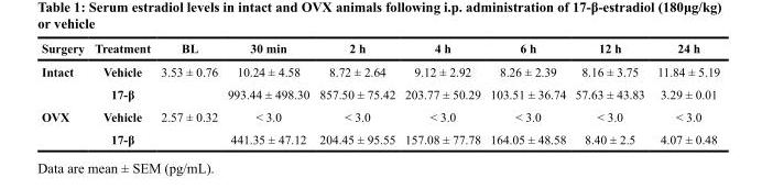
<table><thead><tr><td>Surgery</td><td>Treatment</td><td>BL</td><td>30 min</td><td>2 h</td><td>4 h</td><td>6 h</td><td>12 h</td><td>24 h</td></tr></thead><tbody><tr><td rowspan="2">Intact</td><td>Vehicle</td><td>3.53 ± 0.76</td><td>10.24 ± 4.58</td><td>8.72 ± 2.64</td><td>9.12 ± 2.92</td><td>8.26 ± 2.39</td><td>8.16 ± 3.75</td><td>11.84 ± 5.19</td></tr><tr><td>17-β</td><td></td><td>993.44 ± 498.30</td><td>857.50 ± 75.42</td><td>203.77 ± 50.29</td><td>103.51 ± 36.74</td><td>57.63 ± 43.83</td><td>3.29 ± 0.01</td></tr><tr><td rowspan="2">OVX</td><td>Vehicle</td><td>2.57 ± 0.32</td><td>&lt; 3.0</td><td>&lt; 3.0</td><td>&lt; 3.0</td><td>&lt; 3.0</td><td>&lt; 3.0</td><td>&lt; 3.0</td></tr><tr><td>17-β</td><td></td><td>441.35 ± 47.12</td><td>204.45 ± 95.55</td><td>157.08 ± 77.78</td><td>164.05 ± 48.58</td><td>8.40 ± 2.5</td><td>4.07 ± 0.48</td></tr></tbody></table>